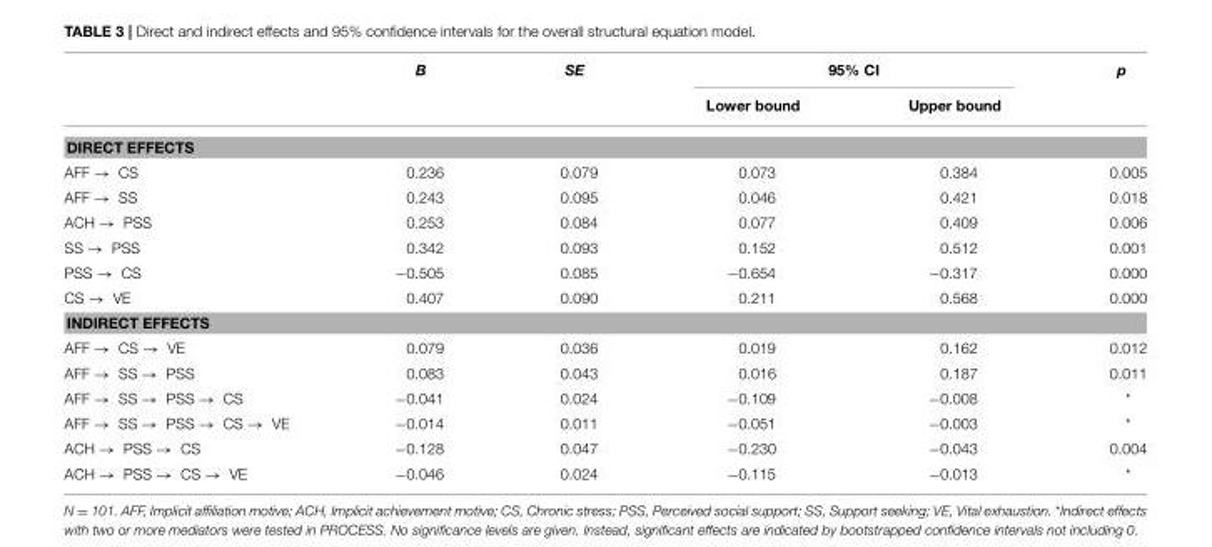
<table><thead><tr><td rowspan="2"></td><td rowspan="2">B</td><td rowspan="2">SE</td><td colspan="2">95% CI</td><td rowspan="2">p</td></tr><tr><td>Lower bound</td><td>Upper bound</td></tr></thead><tbody><tr><td colspan="6">DIRECT EFFECTS</td></tr><tr><td>AFF → CS</td><td>0.236</td><td>0.079</td><td>0.073</td><td>0.384</td><td>0.005</td></tr><tr><td>AFF → SS</td><td>0.243</td><td>0.095</td><td>0.046</td><td>0.421</td><td>0.018</td></tr><tr><td>ACH → PSS</td><td>0.253</td><td>0.084</td><td>0.077</td><td>0.409</td><td>0.006</td></tr><tr><td>SS → PSS</td><td>0.342</td><td>0.093</td><td>0.152</td><td>0.512</td><td>0.001</td></tr><tr><td>PSS → CS</td><td>−0.505</td><td>0.085</td><td>−0.654</td><td>−0.317</td><td>0.000</td></tr><tr><td>CS → VE</td><td>0.407</td><td>0.090</td><td>0.211</td><td>0.568</td><td>0.000</td></tr><tr><td colspan="6">INDIRECT EFFECTS</td></tr><tr><td>AFF → CS → VE</td><td>0.079</td><td>0.036</td><td>0.019</td><td>0.162</td><td>0.012</td></tr><tr><td>AFF → SS → PSS</td><td>0.083</td><td>0.043</td><td>0.016</td><td>0.187</td><td>0.011</td></tr><tr><td>AFF → SS → PSS → CS</td><td>−0.041</td><td>0.024</td><td>−0.109</td><td>−0.008</td><td>*</td></tr><tr><td>AFF → SS → PSS → CS → VE</td><td>−0.014</td><td>0.011</td><td>−0.051</td><td>−0.003</td><td>*</td></tr><tr><td>ACH → PSS → CS</td><td>−0.128</td><td>0.047</td><td>−0.230</td><td>−0.043</td><td>0.004</td></tr><tr><td>ACH → PSS → CS → VE</td><td>−0.046</td><td>0.024</td><td>−0.115</td><td>−0.013</td><td>*</td></tr></tbody></table>